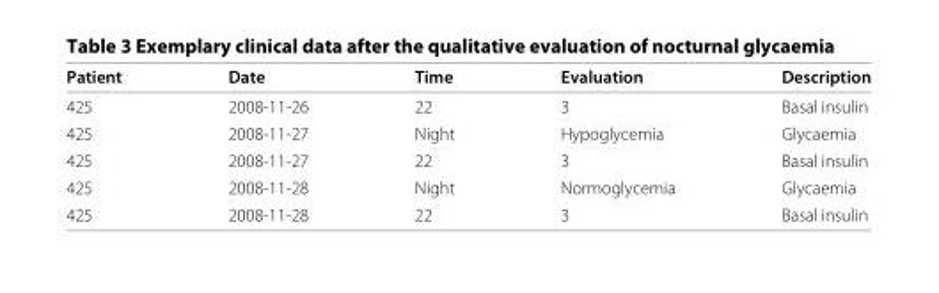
<table><thead><tr><td>Patient</td><td>Date</td><td>Time</td><td>Evaluation</td><td>Description</td></tr></thead><tbody><tr><td>425</td><td>2008-11-26</td><td>22</td><td>3</td><td>Basal insulin</td></tr><tr><td>425</td><td>2008-11-27</td><td>Night</td><td>Hypoglycemia</td><td>Glycaemia</td></tr><tr><td>425</td><td>2008-11-27</td><td>22</td><td>3</td><td>Basal insulin</td></tr><tr><td>425</td><td>2008-11-28</td><td>Night</td><td>Normoglycemia</td><td>Glycaemia</td></tr><tr><td>425</td><td>2008-11-28</td><td>22</td><td>3</td><td>Basal insulin</td></tr></tbody></table>